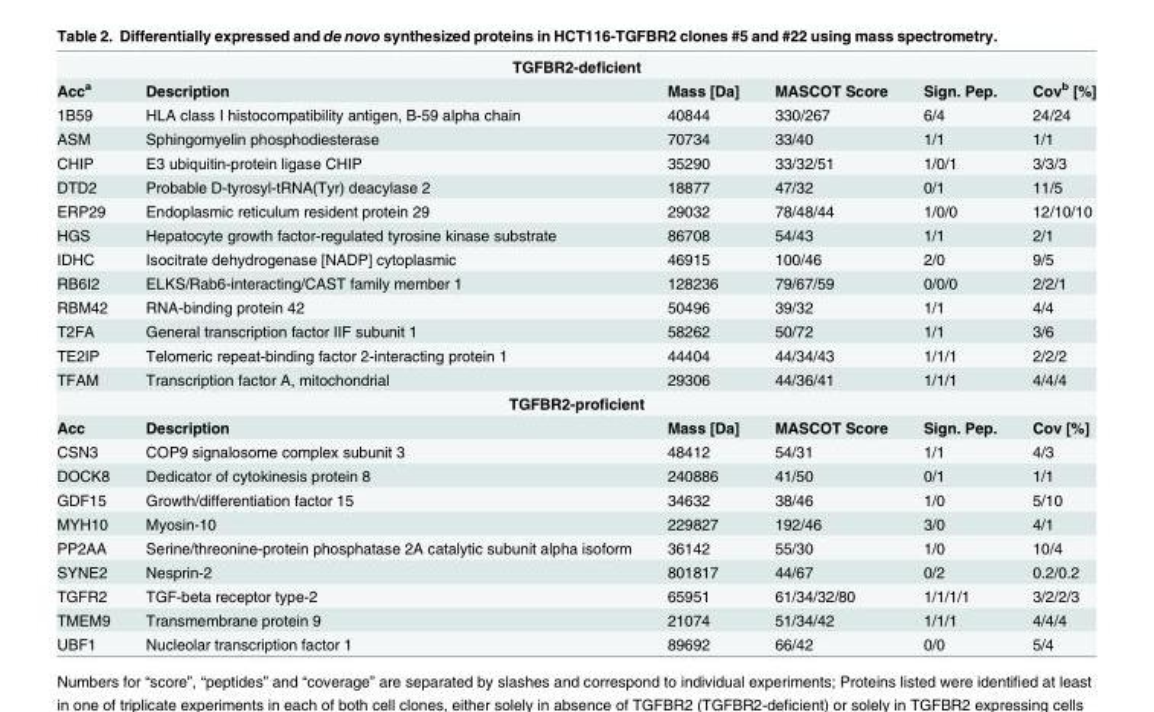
<table><tbody><tr><td colspan="6">TGFBR2-deficient</td></tr><tr><td>Acc<sup>a</sup></td><td>Description</td><td>Mass [Da]</td><td>MASCOT Score</td><td>Sign. Pep.</td><td>Cov<sup>b</sup> [%]</td></tr><tr><td>1B59</td><td>HLA class I histocompatibility antigen, B-59 alpha chain</td><td>40844</td><td>330/267</td><td>6/4</td><td>24/24</td></tr><tr><td>ASM</td><td>Sphingomyelin phosphodiesterase</td><td>70734</td><td>33/40</td><td>1/1</td><td>1/1</td></tr><tr><td>CHIP</td><td>E3 ubiquitin-protein ligase CHIP</td><td>35290</td><td>33/32/51</td><td>1/0/1</td><td>3/3/3</td></tr><tr><td>DTD2</td><td>Probable D-tyrosyl-tRNA(Tyr) deacylase 2</td><td>18877</td><td>47/32</td><td>0/1</td><td>11/5</td></tr><tr><td>ERP29</td><td>Endoplasmic reticulum resident protein 29</td><td>29032</td><td>78/48/44</td><td>1/0/0</td><td>12/10/10</td></tr><tr><td>HGS</td><td>Hepatocyte growth factor-regulated tyrosine kinase substrate</td><td>86708</td><td>54/43</td><td>1/1</td><td>2/1</td></tr><tr><td>IDHC</td><td>Isocitrate dehydrogenase [NADP] cytoplasmic</td><td>46915</td><td>100/46</td><td>2/0</td><td>9/5</td></tr><tr><td>RB6I2</td><td>ELKS/Rab6-interacting/CAST family member 1</td><td>128236</td><td>79/67/59</td><td>0/0/0</td><td>2/2/1</td></tr><tr><td>RBM42</td><td>RNA-binding protein 42</td><td>50496</td><td>39/32</td><td>1/1</td><td>4/4</td></tr><tr><td>T2FA</td><td>General transcription factor IIF subunit 1</td><td>58262</td><td>50/72</td><td>1/1</td><td>3/6</td></tr><tr><td>TE2IP</td><td>Telomeric repeat-binding factor 2-interacting protein 1</td><td>44404</td><td>44/34/43</td><td>1/1/1</td><td>2/2/2</td></tr><tr><td>TFAM</td><td>Transcription factor A, mitochondrial</td><td>29306</td><td>44/36/41</td><td>1/1/1</td><td>4/4/4</td></tr><tr><td colspan="6">TGFBR2-proficient</td></tr><tr><td>Acc</td><td>Description</td><td>Mass [Da]</td><td>MASCOT Score</td><td>Sign. Pep.</td><td>Cov [%]</td></tr><tr><td>CSN3</td><td>COP9 signalosome complex subunit 3</td><td>48412</td><td>54/31</td><td>1/1</td><td>4/3</td></tr><tr><td>DOCK8</td><td>Dedicator of cytokinesis protein 8</td><td>240886</td><td>41/50</td><td>0/1</td><td>1/1</td></tr><tr><td>GDF15</td><td>Growth/differentiation factor 15</td><td>34632</td><td>38/46</td><td>1/0</td><td>5/10</td></tr><tr><td>MYH10</td><td>Myosin-10</td><td>229827</td><td>192/46</td><td>3/0</td><td>4/1</td></tr><tr><td>PP2AA</td><td>Serine/threonine-protein phosphatase 2A catalytic subunit alpha isoform</td><td>36142</td><td>55/30</td><td>1/0</td><td>10/4</td></tr><tr><td>SYNE2</td><td>Nesprin-2</td><td>801817</td><td>44/67</td><td>0/2</td><td>0.2/0.2</td></tr><tr><td>TGFR2</td><td>TGF-beta receptor type-2</td><td>65951</td><td>61/34/32/80</td><td>1/1/1/1</td><td>3/2/2/3</td></tr><tr><td>TMEM9</td><td>Transmembrane protein 9</td><td>21074</td><td>51/34/42</td><td>1/1/1</td><td>4/4/4</td></tr><tr><td>UBF1</td><td>Nucleolar transcription factor 1</td><td>89692</td><td>66/42</td><td>0/0</td><td>5/4</td></tr></tbody></table>